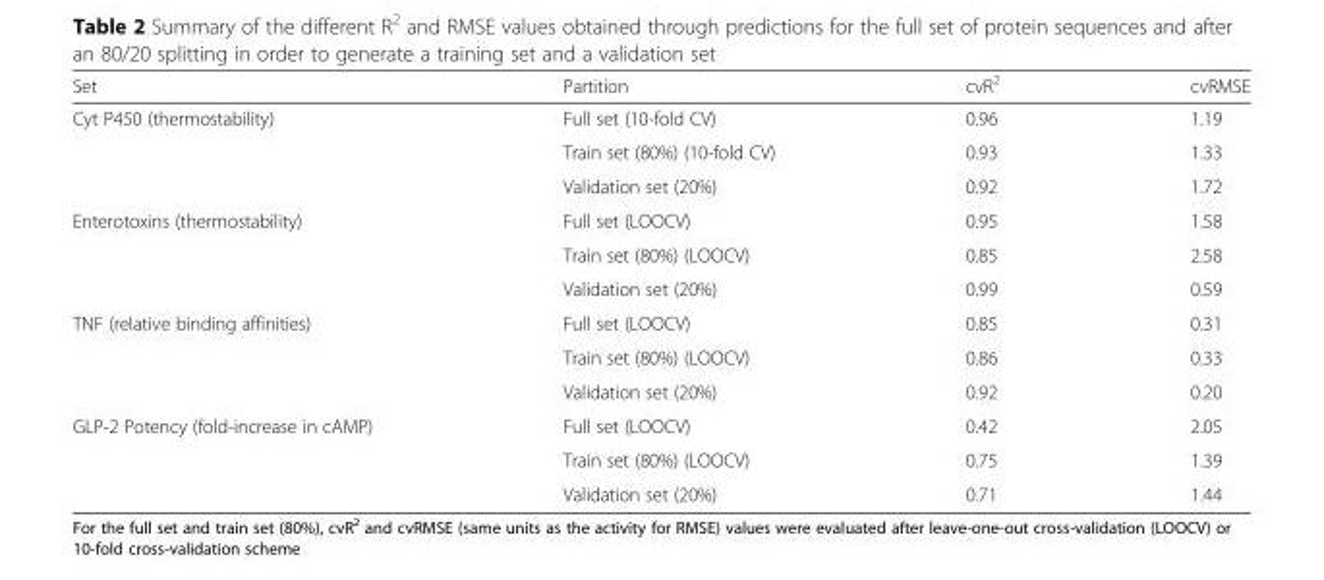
<table><thead><tr><td>Set</td><td>Partition</td><td>cvR<sup>2</sup></td><td>cvRMSE</td></tr></thead><tbody><tr><td rowspan="3">Cyt P450 (thermostability)</td><td>Full set (10-fold CV)</td><td>0.96</td><td>1.19</td></tr><tr><td>Train set (80%) (10-fold CV)</td><td>0.93</td><td>1.33</td></tr><tr><td>Validation set (20%)</td><td>0.92</td><td>1.72</td></tr><tr><td rowspan="3">Enterotoxins (thermostability)</td><td>Full set (LOOCV)</td><td>0.95</td><td>1.58</td></tr><tr><td>Train set (80%) (LOOCV)</td><td>0.85</td><td>2.58</td></tr><tr><td>Validation set (20%)</td><td>0.99</td><td>0.59</td></tr><tr><td rowspan="3">TNF (relative binding affinities)</td><td>Full set (LOOCV)</td><td>0.85</td><td>0.31</td></tr><tr><td>Train set (80%) (LOOCV)</td><td>0.86</td><td>0.33</td></tr><tr><td>Validation set (20%)</td><td>0.92</td><td>0.20</td></tr><tr><td rowspan="3">GLP-2 Potency (fold-increase in cAMP)</td><td>Full set (LOOCV)</td><td>0.42</td><td>2.05</td></tr><tr><td>Train set (80%) (LOOCV)</td><td>0.75</td><td>1.39</td></tr><tr><td>Validation set (20%)</td><td>0.71</td><td>1.44</td></tr></tbody></table>